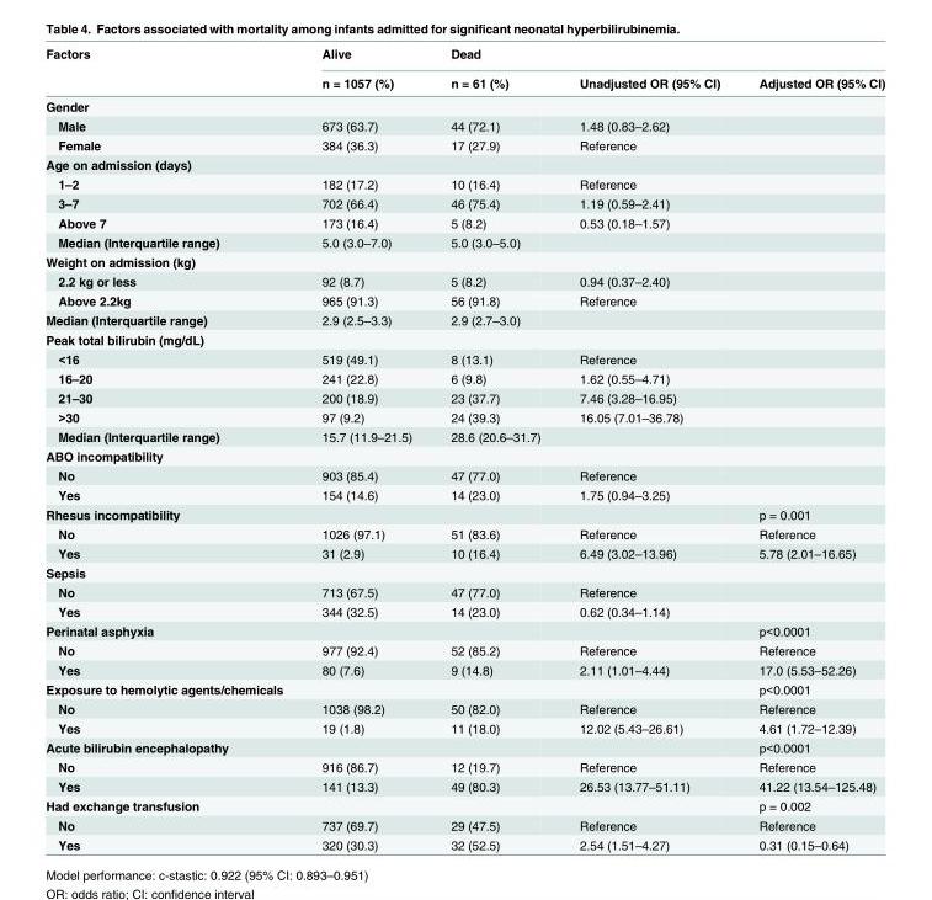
<table><thead><tr><td rowspan="2">Factors</td><td rowspan="2">Alive n = 1057 (%)</td><td rowspan="2">Dead n = 61 (%)</td><td rowspan="2">Unadjusted OR (95% CI)</td><td rowspan="2">Adjusted OR (95% CI)</td></tr><tr></tr></thead><tbody><tr><td colspan="5">Gender</td></tr><tr><td>Male</td><td>673 (63.7)</td><td>44 (72.1)</td><td>1.48 (0.83–2.62)</td><td></td></tr><tr><td>Female</td><td>384 (36.3)</td><td>17 (27.9)</td><td>Reference</td><td></td></tr><tr><td colspan="5">Age on admission (days)</td></tr><tr><td>1–2</td><td>182 (17.2)</td><td>10 (16.4)</td><td>Reference</td><td></td></tr><tr><td>3–7</td><td>702 (66.4)</td><td>46 (75.4)</td><td>1.19 (0.59–2.41)</td><td></td></tr><tr><td>Above 7</td><td>173 (16.4)</td><td>5 (8.2)</td><td>0.53 (0.18–1.57)</td><td></td></tr><tr><td>Median (Interquartile range)</td><td>5.0 (3.0–7.0)</td><td>5.0 (3.0–5.0)</td><td></td><td></td></tr><tr><td colspan="5">Weight on admission (kg)</td></tr><tr><td>2.2 kg or less</td><td>92 (8.7)</td><td>5 (8.2)</td><td>0.94 (0.37–2.40)</td><td></td></tr><tr><td>Above 2.2kg</td><td>965 (91.3)</td><td>56 (91.8)</td><td>Reference</td><td></td></tr><tr><td>Median (Interquartile range)</td><td>2.9 (2.5–3.3)</td><td>2.9 (2.7–3.0)</td><td></td><td></td></tr><tr><td colspan="5">Peak total bilirubin (mg/dL)</td></tr><tr><td>&lt;16</td><td>519 (49.1)</td><td>8 (13.1)</td><td>Reference</td><td></td></tr><tr><td>16–20</td><td>241 (22.8)</td><td>6 (9.8)</td><td>1.62 (0.55–4.71)</td><td></td></tr><tr><td>21–30</td><td>200 (18.9)</td><td>23 (37.7)</td><td>7.46 (3.28–16.95)</td><td></td></tr><tr><td>&gt;30</td><td>97 (9.2)</td><td>24 (39.3)</td><td>16.05 (7.01–36.78)</td><td></td></tr><tr><td>Median (Interquartile range)</td><td>15.7 (11.9–21.5)</td><td>28.6 (20.6–31.7)</td><td></td><td></td></tr><tr><td colspan="5">ABO incompatibility</td></tr><tr><td>No</td><td>903 (85.4)</td><td>47 (77.0)</td><td>Reference</td><td></td></tr><tr><td>Yes</td><td>154 (14.6)</td><td>14 (23.0)</td><td>1.75 (0.94–3.25)</td><td></td></tr><tr><td>Rhesus incompatibility</td><td></td><td></td><td></td><td>p = 0.001</td></tr><tr><td>No</td><td>1026 (97.1)</td><td>51 (83.6)</td><td>Reference</td><td>Reference</td></tr><tr><td>Yes</td><td>31 (2.9)</td><td>10 (16.4)</td><td>6.49 (3.02–13.96)</td><td>5.78 (2.01–16.65)</td></tr><tr><td colspan="5">Sepsis</td></tr><tr><td>No</td><td>713 (67.5)</td><td>47 (77.0)</td><td>Reference</td><td></td></tr><tr><td>Yes</td><td>344 (32.5)</td><td>14 (23.0)</td><td>0.62 (0.34–1.14)</td><td></td></tr><tr><td>Perinatal asphyxia</td><td></td><td></td><td></td><td>p&lt;0.0001</td></tr><tr><td>No</td><td>977 (92.4)</td><td>52 (85.2)</td><td>Reference</td><td>Reference</td></tr><tr><td>Yes</td><td>80 (7.6)</td><td>9 (14.8)</td><td>2.11 (1.01–4.44)</td><td>17.0 (5.53–52.26)</td></tr><tr><td>Exposure to hemolytic agents/chemicals</td><td></td><td></td><td></td><td>p&lt;0.0001</td></tr><tr><td>No</td><td>1038 (98.2)</td><td>50 (82.0)</td><td>Reference</td><td>Reference</td></tr><tr><td>Yes</td><td>19 (1.8)</td><td>11 (18.0)</td><td>12.02 (5.43–26.61)</td><td>4.61 (1.72–12.39)</td></tr><tr><td>Acute bilirubin encephalopathy</td><td></td><td></td><td></td><td>p&lt;0.0001</td></tr><tr><td>No</td><td>916 (86.7)</td><td>12 (19.7)</td><td>Reference</td><td>Reference</td></tr><tr><td>Yes</td><td>141 (13.3)</td><td>49 (80.3)</td><td>26.53 (13.77–51.11)</td><td>41.22 (13.54–125.48)</td></tr><tr><td>Had exchange transfusion</td><td></td><td></td><td></td><td>p = 0.002</td></tr><tr><td>No</td><td>737 (69.7)</td><td>29 (47.5)</td><td>Reference</td><td>Reference</td></tr><tr><td>Yes</td><td>320 (30.3)</td><td>32 (52.5)</td><td>2.54 (1.51–4.27)</td><td>0.31 (0.15–0.64)</td></tr></tbody></table>